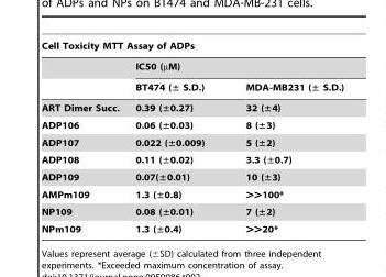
<table><thead><tr><td colspan="3">Cell Toxicity MTT Assay of ADPs</td></tr><tr><td rowspan="2"></td><td colspan="2">IC50 (µM)</td></tr><tr><td>BT474 (± S.D.)</td><td>MDA-MB231 (± S.D.)</td></tr></thead><tbody><tr><td>ART Dimer Succ.</td><td>0.39 (±0.27)</td><td>32 (±4)</td></tr><tr><td>ADP106</td><td>0.06 (±0.03)</td><td>8 (±3)</td></tr><tr><td>ADP107</td><td>0.022 (±0.009)</td><td>5 (±2)</td></tr><tr><td>ADP108</td><td>0.11 (±0.02)</td><td>3.3 (±0.7)</td></tr><tr><td>ADP109</td><td>0.07(±0.01)</td><td>10 (±3)</td></tr><tr><td>AMPm109</td><td>1.3 (±0.8)</td><td>&gt;&gt;100*</td></tr><tr><td>NP109</td><td>0.08 (±0.01)</td><td>7 (±2)</td></tr><tr><td>NPm109</td><td>1.3 (±0.4)</td><td>&gt;&gt;20*</td></tr></tbody></table>